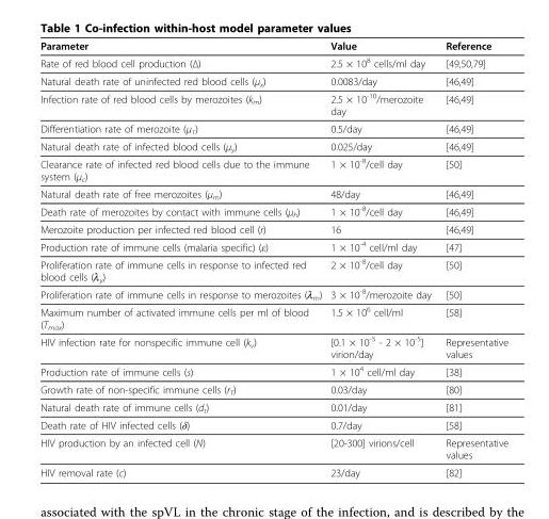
<table><thead><tr><td>Parameter</td><td>Value</td><td>Reference</td></tr></thead><tbody><tr><td>Rate of red blood cell production (Δ)</td><td>2.5 × 10<sup>8</sup> cells/ml day</td><td>[49,50,79]</td></tr><tr><td>Natural death rate of uninfected red blood cells (μ<sub>x</sub>)</td><td>0.0083/day</td><td>[46,49]</td></tr><tr><td>Infection rate of red blood cells by merozoites (k<sub>m</sub>)</td><td>2.5 × 10<sup>-10</sup>/merozoite day</td><td>[46,49]</td></tr><tr><td>Differentiation rate of merozoite (μ<sub>1</sub>)</td><td>0.5/day</td><td>[46,49]</td></tr><tr><td>Natural death rate of infected blood cells (μ<sub>y</sub>)</td><td>0.025/day</td><td>[46,49]</td></tr><tr><td>Clearance rate of infected red blood cells due to the immune system (μ<sub>c</sub>)</td><td>1 × 10<sup>-8</sup>/cell day</td><td>[50]</td></tr><tr><td>Natural death rate of free merozoites (μ<sub>m</sub>)</td><td>48/day</td><td>[46,49]</td></tr><tr><td>Death rate of merozoites by contact with immune cells (μ<sub>h</sub>)</td><td>1 × 10<sup>-8</sup>/cell day</td><td>[46,49]</td></tr><tr><td>Merozoite production per infected red blood cell (r)</td><td>16</td><td>[46,49]</td></tr><tr><td>Production rate of immune cells (malaria specific) (ε)</td><td>1 × 10<sup>-4</sup> cell/ml day</td><td>[47]</td></tr><tr><td>Proliferation rate of immune cells in response to infected red blood cells (λ<sub>y</sub>)</td><td>2 × 10<sup>-8</sup>/cell day</td><td>[50]</td></tr><tr><td>Proliferation rate of immune cells in response to merozoites (λ<sub>m</sub>)</td><td>3 × 10<sup>-8</sup>/merozoite day</td><td>[50]</td></tr><tr><td>Maximum number of activated immune cells per ml of blood (T<sub>max</sub>)</td><td>1.5 × 10<sup>6</sup> cell/ml</td><td>[58]</td></tr><tr><td>HIV infection rate for nonspecific immune cell (k<sub>v</sub>)</td><td>[0.1 × 10<sup>-5</sup> - 2 × 10<sup>-5</sup>] virion/day</td><td>Representative values</td></tr><tr><td>Production rate of immune cells (s)</td><td>1 × 10<sup>4</sup> cell/ml day</td><td>[38]</td></tr><tr><td>Growth rate of non-specific immune cells (r<sub>T</sub>)</td><td>0.03/day</td><td>[80]</td></tr><tr><td>Natural death rate of immune cells (d<sub>t</sub>)</td><td>0.01/day</td><td>[81]</td></tr><tr><td>Death rate of HIV infected cells (δ)</td><td>0.7/day</td><td>[58]</td></tr><tr><td>HIV production by an infected cell (N)</td><td>[20-300] virions/cell</td><td>Representative values</td></tr><tr><td>HIV removal rate (c)</td><td>23/day</td><td>[82]</td></tr></tbody></table>